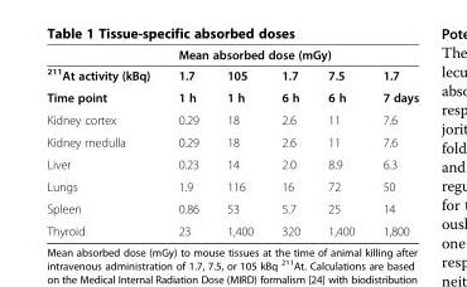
<table><thead><tr><td rowspan="2"><sup>211</sup>At activity (kBq)</td><td colspan="5">Mean absorbed dose (mGy)</td></tr><tr><td>1.7</td><td>105</td><td>1.7</td><td>7.5</td><td>1.7</td></tr></thead><tbody><tr><td>Time point</td><td>1 h</td><td>1 h</td><td>6 h</td><td>6 h</td><td>7 days</td></tr><tr><td>Kidney cortex</td><td>0.29</td><td>18</td><td>2.6</td><td>11</td><td>7.6</td></tr><tr><td>Kidney medulla</td><td>0.29</td><td>18</td><td>2.6</td><td>11</td><td>7.6</td></tr><tr><td>Liver</td><td>0.23</td><td>14</td><td>2.0</td><td>8.9</td><td>6.3</td></tr><tr><td>Lungs</td><td>1.9</td><td>116</td><td>16</td><td>72</td><td>50</td></tr><tr><td>Spleen</td><td>0.86</td><td>53</td><td>5.7</td><td>25</td><td>14</td></tr><tr><td>Thyroid</td><td>23</td><td>1,400</td><td>320</td><td>1,400</td><td>1,800</td></tr></tbody></table>